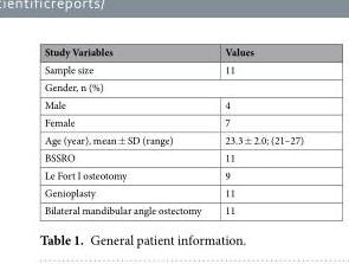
<table><thead><tr><td>Study Variables</td><td>Values</td></tr></thead><tbody><tr><td>Sample size</td><td>11</td></tr><tr><td colspan="2">Gender, n (%)</td></tr><tr><td>Male</td><td>4</td></tr><tr><td>Female</td><td>7</td></tr><tr><td>Age (year), mean ± SD (range)</td><td>23.3 ± 2.0; (21–27)</td></tr><tr><td>BSSRO</td><td>11</td></tr><tr><td>Le Fort I osteotomy</td><td>9</td></tr><tr><td>Genioplasty</td><td>11</td></tr><tr><td>Bilateral mandibular angle ostectomy</td><td>11</td></tr></tbody></table>